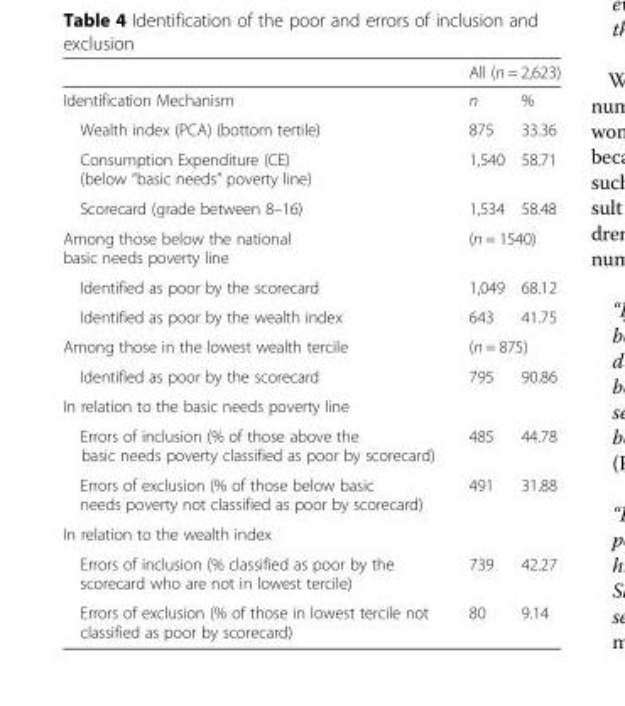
<table><thead><tr><td rowspan="2">Identification Mechanism</td><td colspan="2">All (n = 2,623)</td></tr><tr><td>n</td><td>%</td></tr></thead><tbody><tr><td>Wealth index (PCA) (bottom tertile)</td><td>875</td><td>33.36</td></tr><tr><td>Consumption Expenditure (CE) (below “basic needs” poverty line)</td><td>1,540</td><td>58.71</td></tr><tr><td>Scorecard (grade between 8–16)</td><td>1,534</td><td>58.48</td></tr><tr><td>Among those below the national basic needs poverty line</td><td colspan="2">(n = 1540)</td></tr><tr><td>Identified as poor by the scorecard</td><td>1,049</td><td>68.12</td></tr><tr><td>Identified as poor by the wealth index</td><td>643</td><td>41.75</td></tr><tr><td>Among those in the lowest wealth tercile</td><td colspan="2">(n = 875)</td></tr><tr><td>Identified as poor by the scorecard</td><td>795</td><td>90.86</td></tr><tr><td colspan="3">In relation to the basic needs poverty line</td></tr><tr><td>Errors of inclusion (% of those above the basic needs poverty classified as poor by scorecard)</td><td>485</td><td>44.78</td></tr><tr><td>Errors of exclusion (% of those below basic needs poverty not classified as poor by scorecard)</td><td>491</td><td>31.88</td></tr><tr><td colspan="3">In relation to the wealth index</td></tr><tr><td>Errors of inclusion (% classified as poor by the scorecard who are not in lowest tercile)</td><td>739</td><td>42.27</td></tr><tr><td>Errors of exclusion (% of those in lowest tercile not classified as poor by scorecard)</td><td>80</td><td>9.14</td></tr></tbody></table>